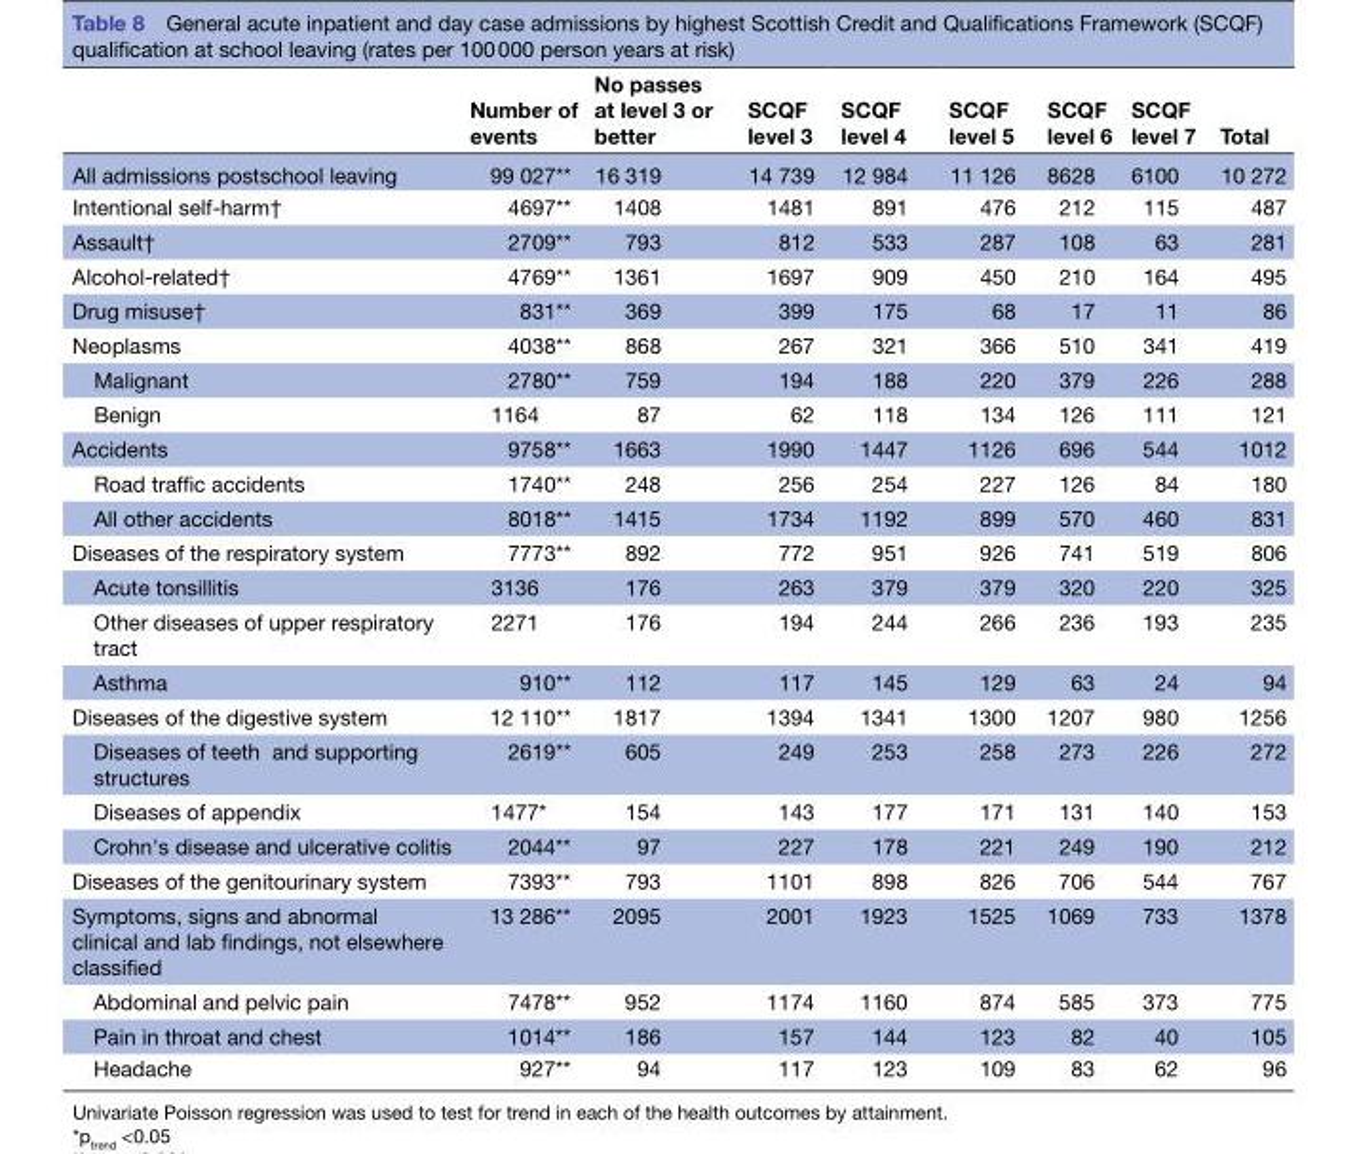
<table><thead><tr><td></td><td>Number of events</td><td>No passes at level 3 or better</td><td>SCQF level 3</td><td>SCQF level 4</td><td>SCQF level 5</td><td>SCQF level 6</td><td>SCQF level 7</td><td>Total</td></tr></thead><tbody><tr><td>All admissions postschool leaving</td><td>99 027**</td><td>16 319</td><td>14 739</td><td>12 984</td><td>11 126</td><td>8628</td><td>6100</td><td>10 272</td></tr><tr><td>Intentional self-harm†</td><td>4697**</td><td>1408</td><td>1481</td><td>891</td><td>476</td><td>212</td><td>115</td><td>487</td></tr><tr><td>Assault†</td><td>2709**</td><td>793</td><td>812</td><td>533</td><td>287</td><td>108</td><td>63</td><td>281</td></tr><tr><td>Alcohol-related†</td><td>4769**</td><td>1361</td><td>1697</td><td>909</td><td>450</td><td>210</td><td>164</td><td>495</td></tr><tr><td>Drug misuse†</td><td>831**</td><td>369</td><td>399</td><td>175</td><td>68</td><td>17</td><td>11</td><td>86</td></tr><tr><td>Neoplasms</td><td>4038**</td><td>868</td><td>267</td><td>321</td><td>366</td><td>510</td><td>341</td><td>419</td></tr><tr><td>Malignant</td><td>2780**</td><td>759</td><td>194</td><td>188</td><td>220</td><td>379</td><td>226</td><td>288</td></tr><tr><td>Benign</td><td>1164</td><td>87</td><td>62</td><td>118</td><td>134</td><td>126</td><td>111</td><td>121</td></tr><tr><td>Accidents</td><td>9758**</td><td>1663</td><td>1990</td><td>1447</td><td>1126</td><td>696</td><td>544</td><td>1012</td></tr><tr><td>Road traffic accidents</td><td>1740**</td><td>248</td><td>256</td><td>254</td><td>227</td><td>126</td><td>84</td><td>180</td></tr><tr><td>All other accidents</td><td>8018**</td><td>1415</td><td>1734</td><td>1192</td><td>899</td><td>570</td><td>460</td><td>831</td></tr><tr><td>Diseases of the respiratory system</td><td>7773**</td><td>892</td><td>772</td><td>951</td><td>926</td><td>741</td><td>519</td><td>806</td></tr><tr><td>Acute tonsillitis</td><td>3136</td><td>176</td><td>263</td><td>379</td><td>379</td><td>320</td><td>220</td><td>325</td></tr><tr><td>Other diseases of upper respiratory tract</td><td>2271</td><td>176</td><td>194</td><td>244</td><td>266</td><td>236</td><td>193</td><td>235</td></tr><tr><td>Asthma</td><td>910**</td><td>112</td><td>117</td><td>145</td><td>129</td><td>63</td><td>24</td><td>94</td></tr><tr><td>Diseases of the digestive system</td><td>12 110**</td><td>1817</td><td>1394</td><td>1341</td><td>1300</td><td>1207</td><td>980</td><td>1256</td></tr><tr><td>Diseases of teeth and supporting structures</td><td>2619**</td><td>605</td><td>249</td><td>253</td><td>258</td><td>273</td><td>226</td><td>272</td></tr><tr><td>Diseases of appendix</td><td>1477*</td><td>154</td><td>143</td><td>177</td><td>171</td><td>131</td><td>140</td><td>153</td></tr><tr><td>Crohn&#x27;s disease and ulcerative colitis</td><td>2044**</td><td>97</td><td>227</td><td>178</td><td>221</td><td>249</td><td>190</td><td>212</td></tr><tr><td>Diseases of the genitourinary system</td><td>7393**</td><td>793</td><td>1101</td><td>898</td><td>826</td><td>706</td><td>544</td><td>767</td></tr><tr><td>Symptoms, signs and abnormal clinical and lab findings, not elsewhere classified</td><td>13 286**</td><td>2095</td><td>2001</td><td>1923</td><td>1525</td><td>1069</td><td>733</td><td>1378</td></tr><tr><td>Abdominal and pelvic pain</td><td>7478**</td><td>952</td><td>1174</td><td>1160</td><td>874</td><td>585</td><td>373</td><td>775</td></tr><tr><td>Pain in throat and chest</td><td>1014**</td><td>186</td><td>157</td><td>144</td><td>123</td><td>82</td><td>40</td><td>105</td></tr><tr><td>Headache</td><td>927**</td><td>94</td><td>117</td><td>123</td><td>109</td><td>83</td><td>62</td><td>96</td></tr></tbody></table>